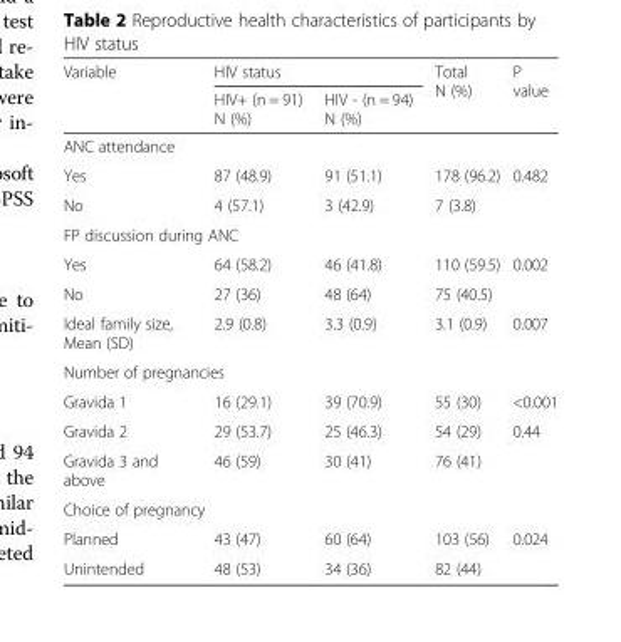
<table><thead><tr><td rowspan="2">Variable</td><td colspan="2">HIV status</td><td rowspan="2">Total N (%)</td><td rowspan="2">P value</td></tr><tr><td>HIV+ (n = 91) N (%)</td><td>HIV - (n = 94) N (%)</td></tr></thead><tbody><tr><td colspan="5">ANC attendance</td></tr><tr><td>Yes</td><td>87 (48.9)</td><td>91 (51.1)</td><td>178 (96.2)</td><td>0.482</td></tr><tr><td>No</td><td>4 (57.1)</td><td>3 (42.9)</td><td>7 (3.8)</td><td></td></tr><tr><td colspan="5">FP discussion during ANC</td></tr><tr><td>Yes</td><td>64 (58.2)</td><td>46 (41.8)</td><td>110 (59.5)</td><td>0.002</td></tr><tr><td>No</td><td>27 (36)</td><td>48 (64)</td><td>75 (40.5)</td><td></td></tr><tr><td>Ideal family size, Mean (SD)</td><td>2.9 (0.8)</td><td>3.3 (0.9)</td><td>3.1 (0.9)</td><td>0.007</td></tr><tr><td colspan="5">Number of pregnancies</td></tr><tr><td>Gravida 1</td><td>16 (29.1)</td><td>39 (70.9)</td><td>55 (30)</td><td>&lt;0.001</td></tr><tr><td>Gravida 2</td><td>29 (53.7)</td><td>25 (46.3)</td><td>54 (29)</td><td>0.44</td></tr><tr><td>Gravida 3 and above</td><td>46 (59)</td><td>30 (41)</td><td>76 (41)</td><td></td></tr><tr><td colspan="5">Choice of pregnancy</td></tr><tr><td>Planned</td><td>43 (47)</td><td>60 (64)</td><td>103 (56)</td><td>0.024</td></tr><tr><td>Unintended</td><td>48 (53)</td><td>34 (36)</td><td>82 (44)</td><td></td></tr></tbody></table>